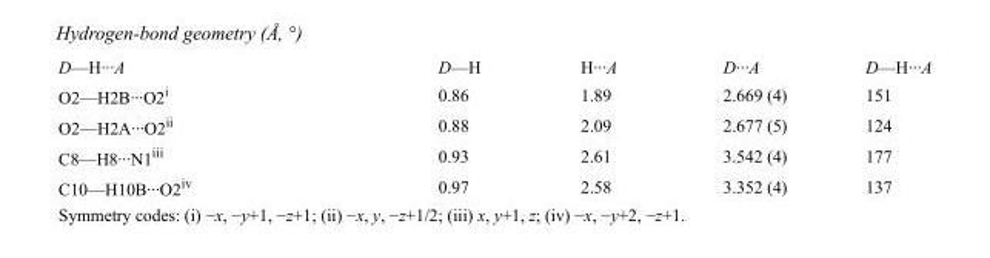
<table><tbody><tr><td>D—H···A</td><td>D—H</td><td>H···A</td><td>D···A</td><td>D—H···A</td></tr><tr><td>O2—H2B···O2<sup>i</sup></td><td>0.86</td><td>1.89</td><td>2.669 (4)</td><td>151</td></tr><tr><td>O2—H2A···O2<sup>ii</sup></td><td>0.88</td><td>2.09</td><td>2.677 (5)</td><td>124</td></tr><tr><td>C8—H8···N1<sup>iii</sup></td><td>0.93</td><td>2.61</td><td>3.542 (4)</td><td>177</td></tr><tr><td>C10—H10B···O2<sup>iv</sup></td><td>0.97</td><td>2.58</td><td>3.352 (4)</td><td>137</td></tr></tbody></table>